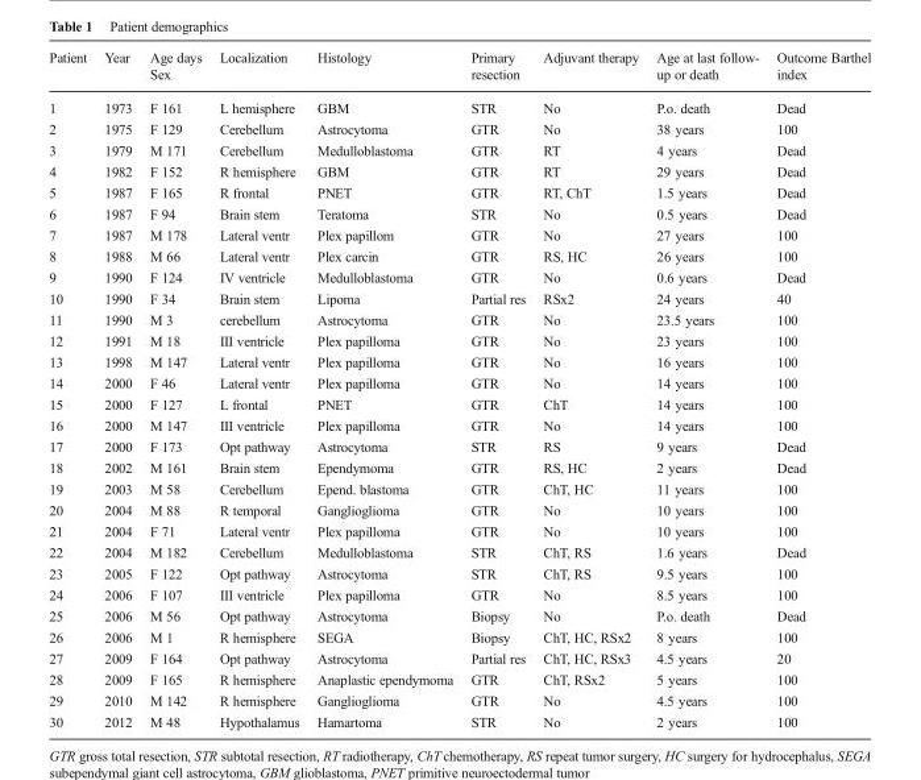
<table><thead><tr><td rowspan="2">Patient</td><td rowspan="2">Year</td><td rowspan="2">Age days Sex</td><td rowspan="2">Localization</td><td rowspan="2">Histology</td><td rowspan="2">Primary resection</td><td rowspan="2">Adjuvant therapy</td><td rowspan="2">Age at last follow- up or death</td><td rowspan="2">Outcome Barthel index</td></tr><tr></tr></thead><tbody><tr><td>1</td><td>1973</td><td>F 161</td><td>L hemisphere</td><td>GBM</td><td>STR</td><td>No</td><td>P.o. death</td><td>Dead</td></tr><tr><td>2</td><td>1975</td><td>F 129</td><td>Cerebellum</td><td>Astrocytoma</td><td>GTR</td><td>No</td><td>38 years</td><td>100</td></tr><tr><td>3</td><td>1979</td><td>M 171</td><td>Cerebellum</td><td>Medulloblastoma</td><td>GTR</td><td>RT</td><td>4 years</td><td>Dead</td></tr><tr><td>4</td><td>1982</td><td>F 152</td><td>R hemisphere</td><td>GBM</td><td>GTR</td><td>RT</td><td>29 years</td><td>Dead</td></tr><tr><td>5</td><td>1987</td><td>F 165</td><td>R frontal</td><td>PNET</td><td>GTR</td><td>RT, ChT</td><td>1.5 years</td><td>Dead</td></tr><tr><td>6</td><td>1987</td><td>F 94</td><td>Brain stem</td><td>Teratoma</td><td>STR</td><td>No</td><td>0.5 years</td><td>Dead</td></tr><tr><td>7</td><td>1987</td><td>M 178</td><td>Lateral ventr</td><td>Plex papillom</td><td>GTR</td><td>No</td><td>27 years</td><td>100</td></tr><tr><td>8</td><td>1988</td><td>M 66</td><td>Lateral ventr</td><td>Plex carcin</td><td>GTR</td><td>RS, HC</td><td>26 years</td><td>100</td></tr><tr><td>9</td><td>1990</td><td>F 124</td><td>IV ventricle</td><td>Medulloblastoma</td><td>GTR</td><td>No</td><td>0.6 years</td><td>Dead</td></tr><tr><td>10</td><td>1990</td><td>F 34</td><td>Brain stem</td><td>Lipoma</td><td>Partial res</td><td>RSx2</td><td>24 years</td><td>40</td></tr><tr><td>11</td><td>1990</td><td>M 3</td><td>cerebellum</td><td>Astrocytoma</td><td>GTR</td><td>No</td><td>23.5 years</td><td>100</td></tr><tr><td>12</td><td>1991</td><td>M 18</td><td>III ventricle</td><td>Plex papilloma</td><td>GTR</td><td>No</td><td>23 years</td><td>100</td></tr><tr><td>13</td><td>1998</td><td>M 147</td><td>Lateral ventr</td><td>Plex papilloma</td><td>GTR</td><td>No</td><td>16 years</td><td>100</td></tr><tr><td>14</td><td>2000</td><td>F 46</td><td>Lateral ventr</td><td>Plex papilloma</td><td>GTR</td><td>No</td><td>14 years</td><td>100</td></tr><tr><td>15</td><td>2000</td><td>F 127</td><td>L frontal</td><td>PNET</td><td>GTR</td><td>ChT</td><td>14 years</td><td>100</td></tr><tr><td>16</td><td>2000</td><td>M 147</td><td>III ventricle</td><td>Plex papilloma</td><td>GTR</td><td>No</td><td>14 years</td><td>100</td></tr><tr><td>17</td><td>2000</td><td>F 173</td><td>Opt pathway</td><td>Astrocytoma</td><td>STR</td><td>RS</td><td>9 years</td><td>Dead</td></tr><tr><td>18</td><td>2002</td><td>M 161</td><td>Brain stem</td><td>Ependymoma</td><td>GTR</td><td>RS, HC</td><td>2 years</td><td>Dead</td></tr><tr><td>19</td><td>2003</td><td>M 58</td><td>Cerebellum</td><td>Epend. blastoma</td><td>GTR</td><td>ChT, HC</td><td>11 years</td><td>100</td></tr><tr><td>20</td><td>2004</td><td>M 88</td><td>R temporal</td><td>Ganglioglioma</td><td>GTR</td><td>No</td><td>10 years</td><td>100</td></tr><tr><td>21</td><td>2004</td><td>F 71</td><td>Lateral ventr</td><td>Plex papilloma</td><td>GTR</td><td>No</td><td>10 years</td><td>100</td></tr><tr><td>22</td><td>2004</td><td>M 182</td><td>Cerebellum</td><td>Medulloblastoma</td><td>STR</td><td>ChT, RS</td><td>1.6 years</td><td>Dead</td></tr><tr><td>23</td><td>2005</td><td>F 122</td><td>Opt pathway</td><td>Astrocytoma</td><td>STR</td><td>ChT, RS</td><td>9.5 years</td><td>100</td></tr><tr><td>24</td><td>2006</td><td>F 107</td><td>III ventricle</td><td>Plex papilloma</td><td>GTR</td><td>No</td><td>8.5 years</td><td>100</td></tr><tr><td>25</td><td>2006</td><td>M 56</td><td>Opt pathway</td><td>Astrocytoma</td><td>Biopsy</td><td>No</td><td>P.o. death</td><td>Dead</td></tr><tr><td>26</td><td>2006</td><td>M 1</td><td>R hemisphere</td><td>SEGA</td><td>Biopsy</td><td>ChT, HC, RSx2</td><td>8 years</td><td>100</td></tr><tr><td>27</td><td>2009</td><td>F 164</td><td>Opt pathway</td><td>Astrocytoma</td><td>Partial res</td><td>ChT, HC, RSx3</td><td>4.5 years</td><td>20</td></tr><tr><td>28</td><td>2009</td><td>F 165</td><td>R hemisphere</td><td>Anaplastic ependymoma</td><td>GTR</td><td>ChT, RSx2</td><td>5 years</td><td>100</td></tr><tr><td>29</td><td>2010</td><td>M 142</td><td>R hemisphere</td><td>Ganglioglioma</td><td>GTR</td><td>No</td><td>4.5 years</td><td>100</td></tr><tr><td>30</td><td>2012</td><td>M 48</td><td>Hypothalamus</td><td>Hamartoma</td><td>STR</td><td>No</td><td>2 years</td><td>100</td></tr></tbody></table>